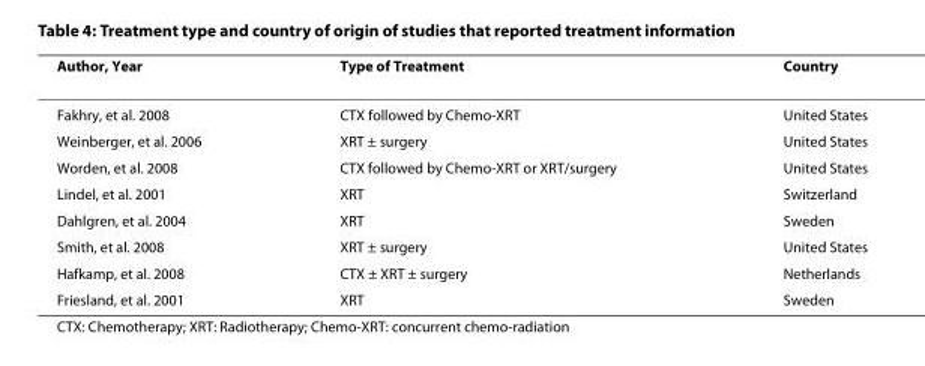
<table><thead><tr><td>Author, Year</td><td>Type of Treatment</td><td>Country</td></tr></thead><tbody><tr><td>Fakhry, et al. 2008</td><td>CTX followed by Chemo-XRT</td><td>United States</td></tr><tr><td>Weinberger, et al. 2006</td><td>XRT ± surgery</td><td>United States</td></tr><tr><td>Worden, et al. 2008</td><td>CTX followed by Chemo-XRT or XRT/surgery</td><td>United States</td></tr><tr><td>Lindel, et al. 2001</td><td>XRT</td><td>Switzerland</td></tr><tr><td>Dahlgren, et al. 2004</td><td>XRT</td><td>Sweden</td></tr><tr><td>Smith, et al. 2008</td><td>XRT ± surgery</td><td>United States</td></tr><tr><td>Hafkamp, et al. 2008</td><td>CTX ± XRT ± surgery</td><td>Netherlands</td></tr><tr><td>Friesland, et al. 2001</td><td>XRT</td><td>Sweden</td></tr></tbody></table>